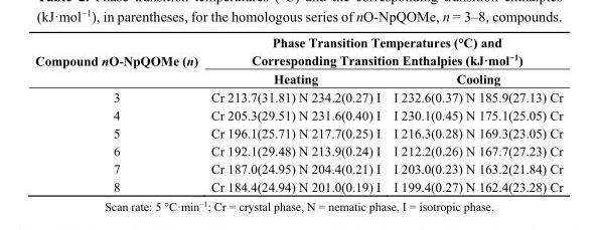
<table><thead><tr><td rowspan="2">Compound nO-NpQOMe (n)</td><td colspan="2">Phase Transition Temperatures (°C) and Corresponding Transition Enthalpies (kJ·mol<sup>−1</sup>)</td></tr><tr><td>Heating</td><td>Cooling</td></tr></thead><tbody><tr><td>3</td><td>Cr 213.7(31.81) N 234.2(0.27) I</td><td>I 232.6(0.37) N 185.9(27.13) Cr</td></tr><tr><td>4</td><td>Cr 205.3(29.51) N 231.6(0.40) I</td><td>I 230.1(0.45) N 175.1(25.05) Cr</td></tr><tr><td>5</td><td>Cr 196.1(25.71) N 217.7(0.25) I</td><td>I 216.3(0.28) N 169.3(23.05) Cr</td></tr><tr><td>6</td><td>Cr 192.1(29.48) N 213.9(0.24) I</td><td>I 212.2(0.26) N 167.7(27.23) Cr</td></tr><tr><td>7</td><td>Cr 187.0(24.95) N 204.4(0.21) I</td><td>I 203.0(0.23) N 163.2(21.84) Cr</td></tr><tr><td>8</td><td>Cr 184.4(24.94) N 201.0(0.19) I</td><td>I 199.4(0.27) N 162.4(23.28) Cr</td></tr></tbody></table>